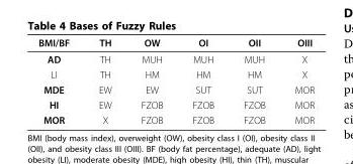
<table><thead><tr><td>BMI/BF</td><td>TH</td><td>OW</td><td>OI</td><td>OII</td><td>OIII</td></tr></thead><tbody><tr><td>AD</td><td>TH</td><td>MUH</td><td>MUH</td><td>MUH</td><td>X</td></tr><tr><td>LI</td><td>TH</td><td>HM</td><td>HM</td><td>HM</td><td>X</td></tr><tr><td>MDE</td><td>EW</td><td>EW</td><td>SUT</td><td>SUT</td><td>MOR</td></tr><tr><td>HI</td><td>EW</td><td>FZOB</td><td>FZOB</td><td>FZOB</td><td>MOR</td></tr><tr><td>MOR</td><td>X</td><td>FZOB</td><td>FZOB</td><td>FZOB</td><td>MOR</td></tr></tbody></table>